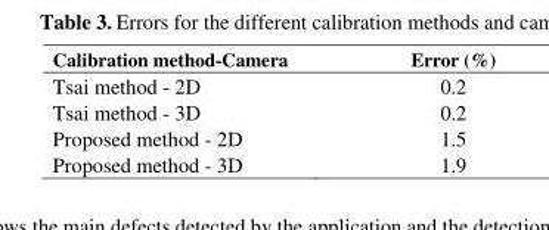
<table><thead><tr><td>Calibration method-Camera</td><td>Error (%)</td></tr></thead><tbody><tr><td>Tsai method - 2D</td><td>0.2</td></tr><tr><td>Tsai method - 3D</td><td>0.2</td></tr><tr><td>Proposed method - 2D</td><td>1.5</td></tr><tr><td>Proposed method - 3D</td><td>1.9</td></tr></tbody></table>